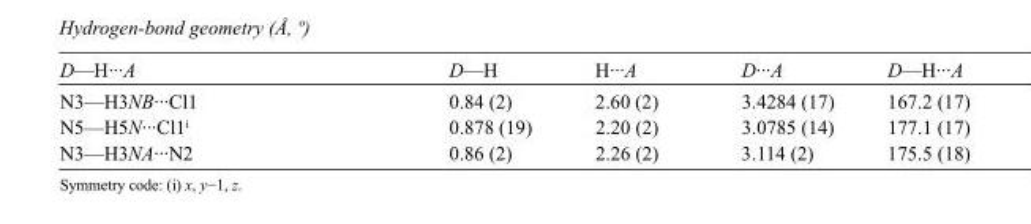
<table><tbody><tr><td>D—H···A</td><td>D—H</td><td>H···A</td><td>D···A</td><td>D—H···A</td></tr><tr><td>N3—H3NB···Cl1</td><td>0.84 (2)</td><td>2.60 (2)</td><td>3.4284 (17)</td><td>167.2 (17)</td></tr><tr><td>N5—H5N···Cl1<sup>i</sup></td><td>0.878 (19)</td><td>2.20 (2)</td><td>3.0785 (14)</td><td>177.1 (17)</td></tr><tr><td>N3—H3NA···N2</td><td>0.86 (2)</td><td>2.26 (2)</td><td>3.114 (2)</td><td>175.5 (18)</td></tr></tbody></table>